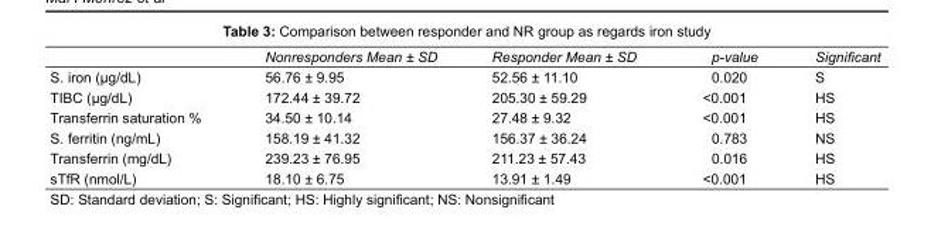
<table><thead><tr><td></td><td>Nonresponders Mean ± SD</td><td>Responder Mean ± SD</td><td>p-value</td><td>Significant</td></tr></thead><tbody><tr><td>S. iron (μg/dL)</td><td>56.76 ± 9.95</td><td>52.56 ± 11.10</td><td>0.020</td><td>S</td></tr><tr><td>TIBC (μg/dL)</td><td>172.44 ± 39.72</td><td>205.30 ± 59.29</td><td>&lt;0.001</td><td>HS</td></tr><tr><td>Transferrin saturation %</td><td>34.50 ± 10.14</td><td>27.48 ± 9.32</td><td>&lt;0.001</td><td>HS</td></tr><tr><td>S. ferritin (ng/mL)</td><td>158.19 ± 41.32</td><td>156.37 ± 36.24</td><td>0.783</td><td>NS</td></tr><tr><td>Transferrin (mg/dL)</td><td>239.23 ± 76.95</td><td>211.23 ± 57.43</td><td>0.016</td><td>HS</td></tr><tr><td>sTfR (nmol/L)</td><td>18.10 ± 6.75</td><td>13.91 ± 1.49</td><td>&lt;0.001</td><td>HS</td></tr></tbody></table>